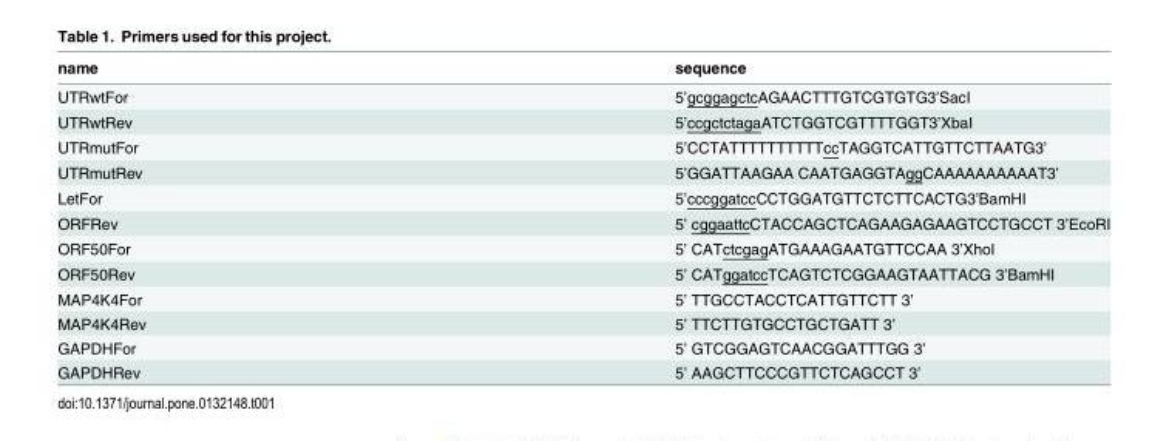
<table><thead><tr><td>name</td><td>sequence</td></tr></thead><tbody><tr><td>UTRwtFor</td><td>5’gcggagctcAGAACTTTGTCGTGTG3’SacI</td></tr><tr><td>UTRwtRev</td><td>5’ccgctctagaATCTGGTCGTTTTGGT3’XbaI</td></tr><tr><td>UTRmutFor</td><td>5’CCTATTTTTTTTTTccTAGGTCATTGTTCTTAATG3’</td></tr><tr><td>UTRmutRev</td><td>5’GGATTAAGAA CAATGAGGTAggCAAAAAAAAAAT3’</td></tr><tr><td>LetFor</td><td>5’cccggatccCCTGGATGTTCTCTTCACTG3’BamHI</td></tr><tr><td>ORFRev</td><td>5’ cggaattcCTACCAGCTCAGAAGAGAAGTCCTGCCT 3’EcoRI</td></tr><tr><td>ORF50For</td><td>5’ CATctcgagATGAAAGAATGTTCCAA 3’XhoⅠ</td></tr><tr><td>ORF50Rev</td><td>5’ CATggatccTCAGTCTCGGAAGTAATTACG 3’BamHⅠ</td></tr><tr><td>MAP4K4For</td><td>5’ TTGCCTACCTCATTGTTCTT 3’</td></tr><tr><td>MAP4K4Rev</td><td>5’ TTCTTGTGCCTGCTGATT 3’</td></tr><tr><td>GAPDHFor</td><td>5’ GTCGGAGTCAACGGATTTGG 3’</td></tr><tr><td>GAPDHRev</td><td>5’ AAGCTTCCCGTTCTCAGCCT 3’</td></tr></tbody></table>